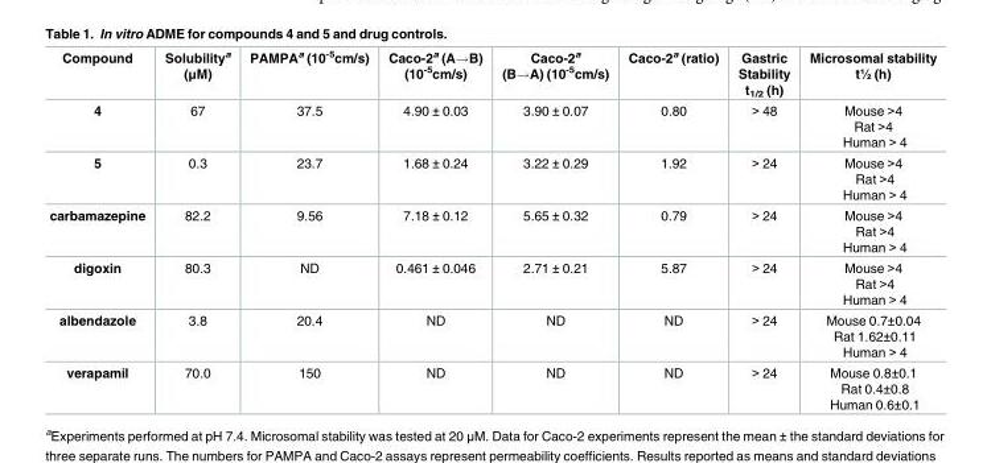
<table><thead><tr><td>Compound</td><td>Solubility<sup>a</sup> (μM)</td><td>PAMPA<sup>a</sup> (10<sup>-5</sup>cm/s)</td><td>Caco-2<sup>a</sup> (A→B) (10<sup>-5</sup>cm/s)</td><td>Caco-2<sup>a</sup> (B→A) (10<sup>-5</sup>cm/s)</td><td>Caco-2<sup>a</sup> (ratio)</td><td>Gastric Stability t<sub>1/2</sub> (h)</td><td>Microsomal stability t½ (h)</td></tr></thead><tbody><tr><td>4</td><td>67</td><td>37.5</td><td>4.90 ± 0.03</td><td>3.90 ± 0.07</td><td>0.80</td><td>&gt; 48</td><td>Mouse &gt;4 Rat &gt;4 Human &gt; 4</td></tr><tr><td>5</td><td>0.3</td><td>23.7</td><td>1.68 ± 0.24</td><td>3.22 ± 0.29</td><td>1.92</td><td>&gt; 24</td><td>Mouse &gt;4 Rat &gt;4 Human &gt; 4</td></tr><tr><td>carbamazepine</td><td>82.2</td><td>9.56</td><td>7.18 ± 0.12</td><td>5.65 ± 0.32</td><td>0.79</td><td>&gt; 24</td><td>Mouse &gt;4 Rat &gt;4 Human &gt; 4</td></tr><tr><td>digoxin</td><td>80.3</td><td>ND</td><td>0.461 ± 0.046</td><td>2.71 ± 0.21</td><td>5.87</td><td>&gt; 24</td><td>Mouse &gt;4 Rat &gt;4 Human &gt; 4</td></tr><tr><td>albendazole</td><td>3.8</td><td>20.4</td><td>ND</td><td>ND</td><td>ND</td><td>&gt; 24</td><td>Mouse 0.7±0.04 Rat 1.62±0.11 Human &gt; 4</td></tr><tr><td>verapamil</td><td>70.0</td><td>150</td><td>ND</td><td>ND</td><td>ND</td><td>&gt; 24</td><td>Mouse 0.8±0.1 Rat 0.4±0.8 Human 0.6±0.1</td></tr></tbody></table>